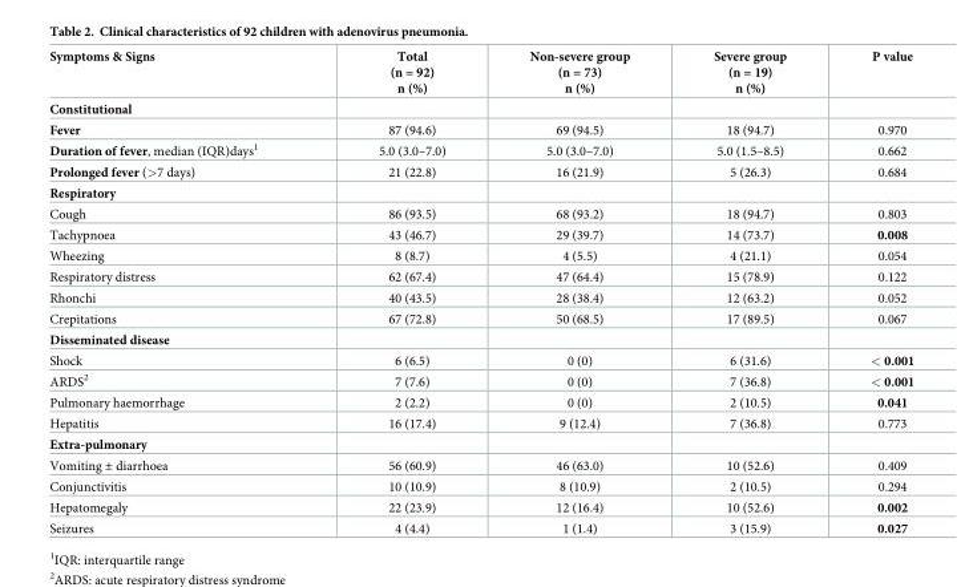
<table><thead><tr><td>Symptoms &amp; Signs</td><td>Total (n = 92) n (%)</td><td>Non-severe group (n = 73) n (%)</td><td>Severe group (n = 19) n (%)</td><td>P value</td></tr></thead><tbody><tr><td colspan="5">Constitutional</td></tr><tr><td>Fever</td><td>87 (94.6)</td><td>69 (94.5)</td><td>18 (94.7)</td><td>0.970</td></tr><tr><td>Duration of fever, median (IQR)days<sup>1</sup></td><td>5.0 (3.0–7.0)</td><td>5.0 (3.0–7.0)</td><td>5.0 (1.5–8.5)</td><td>0.662</td></tr><tr><td>Prolonged fever (&gt;7 days)</td><td>21 (22.8)</td><td>16 (21.9)</td><td>5 (26.3)</td><td>0.684</td></tr><tr><td colspan="5">Respiratory</td></tr><tr><td>Cough</td><td>86 (93.5)</td><td>68 (93.2)</td><td>18 (94.7)</td><td>0.803</td></tr><tr><td>Tachypnoea</td><td>43 (46.7)</td><td>29 (39.7)</td><td>14 (73.7)</td><td>0.008</td></tr><tr><td>Wheezing</td><td>8 (8.7)</td><td>4 (5.5)</td><td>4 (21.1)</td><td>0.054</td></tr><tr><td>Respiratory distress</td><td>62 (67.4)</td><td>47 (64.4)</td><td>15 (78.9)</td><td>0.122</td></tr><tr><td>Rhonchi</td><td>40 (43.5)</td><td>28 (38.4)</td><td>12 (63.2)</td><td>0.052</td></tr><tr><td>Crepitations</td><td>67 (72.8)</td><td>50 (68.5)</td><td>17 (89.5)</td><td>0.067</td></tr><tr><td colspan="5">Disseminated disease</td></tr><tr><td>Shock</td><td>6 (6.5)</td><td>0 (0)</td><td>6 (31.6)</td><td>&lt; 0.001</td></tr><tr><td>ARDS<sup>2</sup></td><td>7 (7.6)</td><td>0 (0)</td><td>7 (36.8)</td><td>&lt; 0.001</td></tr><tr><td>Pulmonary haemorrhage</td><td>2 (2.2)</td><td>0 (0)</td><td>2 (10.5)</td><td>0.041</td></tr><tr><td>Hepatitis</td><td>16 (17.4)</td><td>9 (12.4)</td><td>7 (36.8)</td><td>0.773</td></tr><tr><td colspan="5">Extra-pulmonary</td></tr><tr><td>Vomiting ± diarrhoea</td><td>56 (60.9)</td><td>46 (63.0)</td><td>10 (52.6)</td><td>0.409</td></tr><tr><td>Conjunctivitis</td><td>10 (10.9)</td><td>8 (10.9)</td><td>2 (10.5)</td><td>0.294</td></tr><tr><td>Hepatomegaly</td><td>22 (23.9)</td><td>12 (16.4)</td><td>10 (52.6)</td><td>0.002</td></tr><tr><td>Seizures</td><td>4 (4.4)</td><td>1 (1.4)</td><td>3 (15.9)</td><td>0.027</td></tr></tbody></table>